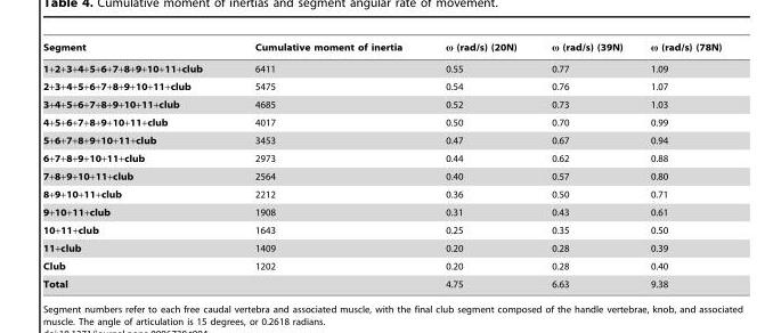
<table><thead><tr><td>Segment</td><td>Cumulative moment of inertia</td><td>ω (rad/s) (20N)</td><td>ω (rad/s) (39N)</td><td>ω (rad/s) (78N)</td></tr></thead><tbody><tr><td>1+2+3+4+5+6+7+8+9+10+11+club</td><td>6411</td><td>0.55</td><td>0.77</td><td>1.09</td></tr><tr><td>2+3+4+5+6+7+8+9+10+11+club</td><td>5475</td><td>0.54</td><td>0.76</td><td>1.07</td></tr><tr><td>3+4+5+6+7+8+9+10+11+club</td><td>4685</td><td>0.52</td><td>0.73</td><td>1.03</td></tr><tr><td>4+5+6+7+8+9+10+11+club</td><td>4017</td><td>0.50</td><td>0.70</td><td>0.99</td></tr><tr><td>5+6+7+8+9+10+11+club</td><td>3453</td><td>0.47</td><td>0.67</td><td>0.94</td></tr><tr><td>6+7+8+9+10+11+club</td><td>2973</td><td>0.44</td><td>0.62</td><td>0.88</td></tr><tr><td>7+8+9+10+11+club</td><td>2564</td><td>0.40</td><td>0.57</td><td>0.80</td></tr><tr><td>8+9+10+11+club</td><td>2212</td><td>0.36</td><td>0.50</td><td>0.71</td></tr><tr><td>9+10+11+club</td><td>1908</td><td>0.31</td><td>0.43</td><td>0.61</td></tr><tr><td>10+11+club</td><td>1643</td><td>0.25</td><td>0.35</td><td>0.50</td></tr><tr><td>11+club</td><td>1409</td><td>0.20</td><td>0.28</td><td>0.39</td></tr><tr><td>Club</td><td>1202</td><td>0.20</td><td>0.28</td><td>0.40</td></tr><tr><td>Total</td><td></td><td>4.75</td><td>6.63</td><td>9.38</td></tr></tbody></table>